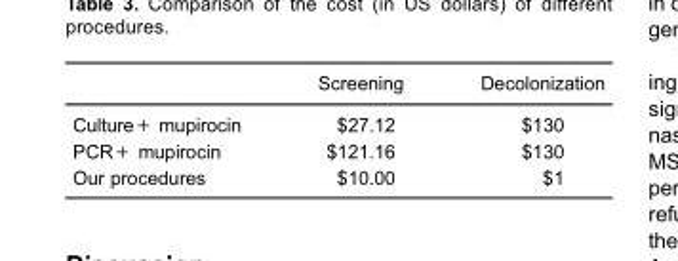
<table><thead><tr><td></td><td>Screening</td><td>Decolonization</td></tr></thead><tbody><tr><td>Culture+ mupirocin</td><td>$27.12</td><td>$130</td></tr><tr><td>PCR+ mupirocin</td><td>$121.16</td><td>$130</td></tr><tr><td>Our procedures</td><td>$10.00</td><td>$1</td></tr></tbody></table>